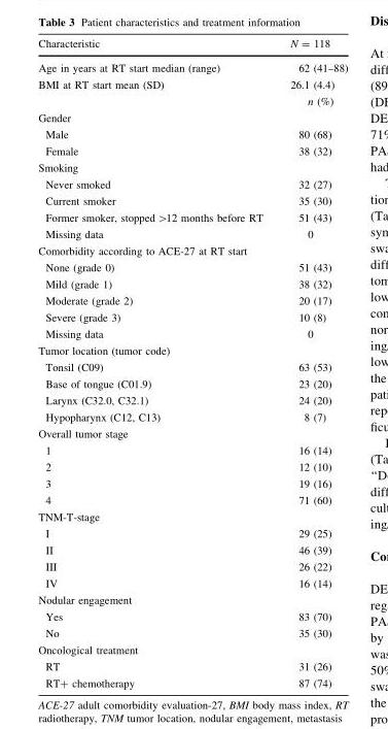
<table><thead><tr><td>Characteristic</td><td>N = 118</td></tr></thead><tbody><tr><td>Age in years at RT start median (range)</td><td>62 (41–88)</td></tr><tr><td rowspan="2">BMI at RT start mean (SD)</td><td>26.1 (4.4)</td></tr><tr><td>n (%)</td></tr><tr><td colspan="2">Gender</td></tr><tr><td>Male</td><td>80 (68)</td></tr><tr><td>Female</td><td>38 (32)</td></tr><tr><td colspan="2">Smoking</td></tr><tr><td>Never smoked</td><td>32 (27)</td></tr><tr><td>Current smoker</td><td>35 (30)</td></tr><tr><td>Former smoker, stopped &gt;12 months before RT</td><td>51 (43)</td></tr><tr><td>Missing data</td><td>0</td></tr><tr><td colspan="2">Comorbidity according to ACE-27 at RT start</td></tr><tr><td>None (grade 0)</td><td>51 (43)</td></tr><tr><td>Mild (grade 1)</td><td>38 (32)</td></tr><tr><td>Moderate (grade 2)</td><td>20 (17)</td></tr><tr><td>Severe (grade 3)</td><td>10 (8)</td></tr><tr><td>Missing data</td><td>0</td></tr><tr><td colspan="2">Tumor location (tumor code)</td></tr><tr><td>Tonsil (C09)</td><td>63 (53)</td></tr><tr><td>Base of tongue (C01.9)</td><td>23 (20)</td></tr><tr><td>Larynx (C32.0, C32.1)</td><td>24 (20)</td></tr><tr><td>Hypopharynx (C12, C13)</td><td>8 (7)</td></tr><tr><td colspan="2">Overall tumor stage</td></tr><tr><td>1</td><td>16 (14)</td></tr><tr><td>2</td><td>12 (10)</td></tr><tr><td>3</td><td>19 (16)</td></tr><tr><td>4</td><td>71 (60)</td></tr><tr><td colspan="2">TNM-T-stage</td></tr><tr><td>I</td><td>29 (25)</td></tr><tr><td>II</td><td>46 (39)</td></tr><tr><td>III</td><td>26 (22)</td></tr><tr><td>IV</td><td>16 (14)</td></tr><tr><td colspan="2">Nodular engagement</td></tr><tr><td>Yes</td><td>83 (70)</td></tr><tr><td>No</td><td>35 (30)</td></tr><tr><td colspan="2">Oncological treatment</td></tr><tr><td>RT</td><td>31 (26)</td></tr><tr><td>RT+ chemotherapy</td><td>87 (74)</td></tr></tbody></table>